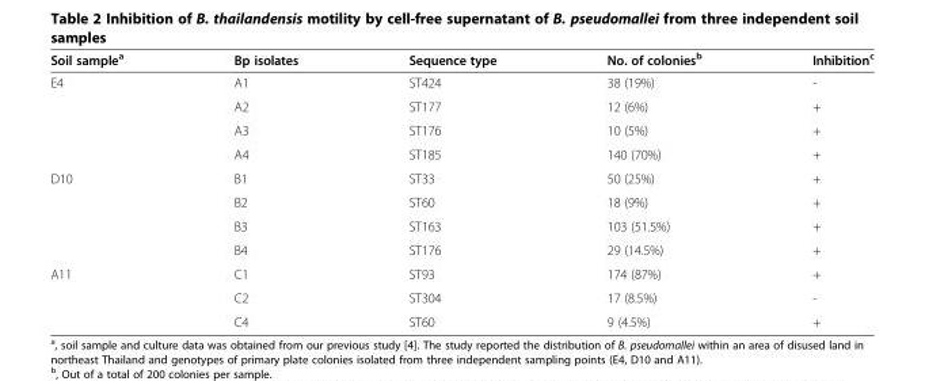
<table><thead><tr><td>Soil sample<sup>a</sup></td><td>Bp isolates</td><td>Sequence type</td><td>No. of colonies<sup>b</sup></td><td>Inhibition<sup>c</sup></td></tr></thead><tbody><tr><td rowspan="4">E4</td><td>A1</td><td>ST424</td><td>38 (19%)</td><td>-</td></tr><tr><td>A2</td><td>ST177</td><td>12 (6%)</td><td>+</td></tr><tr><td>A3</td><td>ST176</td><td>10 (5%)</td><td>+</td></tr><tr><td>A4</td><td>ST185</td><td>140 (70%)</td><td>+</td></tr><tr><td rowspan="4">D10</td><td>B1</td><td>ST33</td><td>50 (25%)</td><td>+</td></tr><tr><td>B2</td><td>ST60</td><td>18 (9%)</td><td>+</td></tr><tr><td>B3</td><td>ST163</td><td>103 (51.5%)</td><td>+</td></tr><tr><td>B4</td><td>ST176</td><td>29 (14.5%)</td><td>+</td></tr><tr><td rowspan="3">A11</td><td>C1</td><td>ST93</td><td>174 (87%)</td><td>+</td></tr><tr><td>C2</td><td>ST304</td><td>17 (8.5%)</td><td>-</td></tr><tr><td>C4</td><td>ST60</td><td>9 (4.5%)</td><td>+</td></tr></tbody></table>